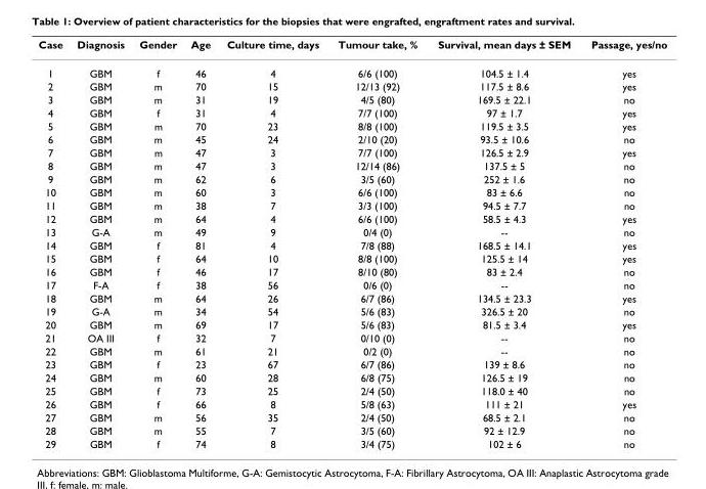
<table><thead><tr><td>Case</td><td>Diagnosis</td><td>Gender</td><td>Age</td><td>Culture time, days</td><td>Tumour take, %</td><td>Survival, mean days ± SEM</td><td>Passage, yes/no</td></tr></thead><tbody><tr><td>1</td><td>GBM</td><td>f</td><td>46</td><td>4</td><td>6/6 (100)</td><td>104.5 ± 1.4</td><td>yes</td></tr><tr><td>2</td><td>GBM</td><td>m</td><td>70</td><td>15</td><td>12/13 (92)</td><td>117.5 ± 8.6</td><td>yes</td></tr><tr><td>3</td><td>GBM</td><td>m</td><td>31</td><td>19</td><td>4/5 (80)</td><td>169.5 ± 22.1</td><td>no</td></tr><tr><td>4</td><td>GBM</td><td>f</td><td>31</td><td>4</td><td>7/7 (100)</td><td>97 ± 1.7</td><td>yes</td></tr><tr><td>5</td><td>GBM</td><td>m</td><td>70</td><td>23</td><td>8/8 (100)</td><td>119.5 ± 3.5</td><td>yes</td></tr><tr><td>6</td><td>GBM</td><td>m</td><td>45</td><td>24</td><td>2/10 (20)</td><td>93.5 ± 10.6</td><td>no</td></tr><tr><td>7</td><td>GBM</td><td>m</td><td>47</td><td>3</td><td>7/7 (100)</td><td>126.5 ± 2.9</td><td>yes</td></tr><tr><td>8</td><td>GBM</td><td>m</td><td>47</td><td>3</td><td>12/14 (86)</td><td>137.5 ± 5</td><td>no</td></tr><tr><td>9</td><td>GBM</td><td>m</td><td>62</td><td>6</td><td>3/5 (60)</td><td>252 ± 1.6</td><td>no</td></tr><tr><td>10</td><td>GBM</td><td>m</td><td>60</td><td>3</td><td>6/6 (100)</td><td>83 ± 6.6</td><td>no</td></tr><tr><td>11</td><td>GBM</td><td>m</td><td>38</td><td>7</td><td>3/3 (100)</td><td>94.5 ± 7.7</td><td>no</td></tr><tr><td>12</td><td>GBM</td><td>m</td><td>64</td><td>4</td><td>6/6 (100)</td><td>58.5 ± 4.3</td><td>yes</td></tr><tr><td>13</td><td>G-A</td><td>m</td><td>49</td><td>9</td><td>0/4 (0)</td><td>--</td><td>no</td></tr><tr><td>14</td><td>GBM</td><td>f</td><td>81</td><td>4</td><td>7/8 (88)</td><td>168.5 ± 14.1</td><td>yes</td></tr><tr><td>15</td><td>GBM</td><td>f</td><td>64</td><td>10</td><td>8/8 (100)</td><td>125.5 ± 14</td><td>yes</td></tr><tr><td>16</td><td>GBM</td><td>f</td><td>46</td><td>17</td><td>8/10 (80)</td><td>83 ± 2.4</td><td>no</td></tr><tr><td>17</td><td>F-A</td><td>f</td><td>38</td><td>56</td><td>0/6 (0)</td><td>--</td><td>no</td></tr><tr><td>18</td><td>GBM</td><td>m</td><td>64</td><td>26</td><td>6/7 (86)</td><td>134.5 ± 23.3</td><td>yes</td></tr><tr><td>19</td><td>G-A</td><td>m</td><td>34</td><td>54</td><td>5/6 (83)</td><td>326.5 ± 20</td><td>no</td></tr><tr><td>20</td><td>GBM</td><td>m</td><td>69</td><td>17</td><td>5/6 (83)</td><td>81.5 ± 3.4</td><td>yes</td></tr><tr><td>21</td><td>OA III</td><td>f</td><td>32</td><td>7</td><td>0/10 (0)</td><td>--</td><td>no</td></tr><tr><td>22</td><td>GBM</td><td>m</td><td>61</td><td>21</td><td>0/2 (0)</td><td>--</td><td>no</td></tr><tr><td>23</td><td>GBM</td><td>f</td><td>23</td><td>67</td><td>6/7 (86)</td><td>139 ± 8.6</td><td>no</td></tr><tr><td>24</td><td>GBM</td><td>m</td><td>60</td><td>28</td><td>6/8 (75)</td><td>126.5 ± 19</td><td>no</td></tr><tr><td>25</td><td>GBM</td><td>f</td><td>73</td><td>25</td><td>2/4 (50)</td><td>118.0 ± 40</td><td>no</td></tr><tr><td>26</td><td>GBM</td><td>f</td><td>66</td><td>8</td><td>5/8 (63)</td><td>111 ± 21</td><td>yes</td></tr><tr><td>27</td><td>GBM</td><td>m</td><td>56</td><td>35</td><td>2/4 (50)</td><td>68.5 ± 2.1</td><td>no</td></tr><tr><td>28</td><td>GBM</td><td>m</td><td>55</td><td>7</td><td>3/5 (60)</td><td>92 ± 12.9</td><td>no</td></tr><tr><td>29</td><td>GBM</td><td>f</td><td>74</td><td>8</td><td>3/4 (75)</td><td>102 ± 6</td><td>no</td></tr></tbody></table>